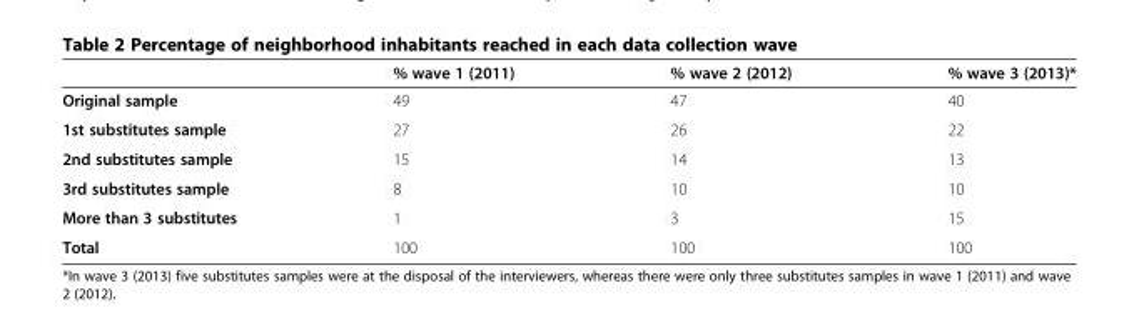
<table><thead><tr><td></td><td>% wave 1 (2011)</td><td>% wave 2 (2012)</td><td>% wave 3 (2013)*</td></tr></thead><tbody><tr><td>Original sample</td><td>49</td><td>47</td><td>40</td></tr><tr><td>1st substitutes sample</td><td>27</td><td>26</td><td>22</td></tr><tr><td>2nd substitutes sample</td><td>15</td><td>14</td><td>13</td></tr><tr><td>3rd substitutes sample</td><td>8</td><td>10</td><td>10</td></tr><tr><td>More than 3 substitutes</td><td>1</td><td>3</td><td>15</td></tr><tr><td>Total</td><td>100</td><td>100</td><td>100</td></tr></tbody></table>